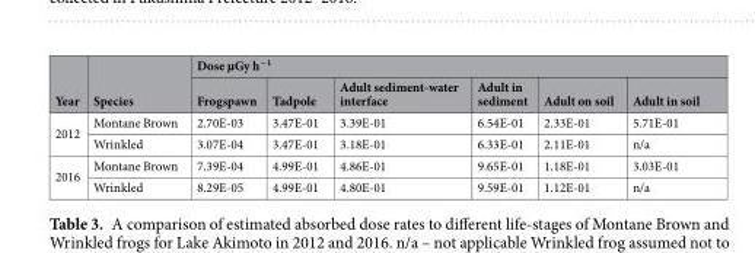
<table><thead><tr><td rowspan="2">Year</td><td rowspan="2">Species</td><td colspan="6">Dose µGy h<sup>−1</sup></td></tr><tr><td>Frogspawn</td><td>Tadpole</td><td>Adult sediment-water interface</td><td>Adult in sediment</td><td>Adult on soil</td><td>Adult in soil</td></tr></thead><tbody><tr><td rowspan="2">2012</td><td>Montane Brown</td><td>2.70E-03</td><td>3.47E-01</td><td>3.39E-01</td><td>6.54E-01</td><td>2.33E-01</td><td>5.71E-01</td></tr><tr><td>Wrinkled</td><td>3.07E-04</td><td>3.47E-01</td><td>3.18E-01</td><td>6.33E-01</td><td>2.11E-01</td><td>n/a</td></tr><tr><td rowspan="2">2016</td><td>Montane Brown</td><td>7.39E-04</td><td>4.99E-01</td><td>4.86E-01</td><td>9.65E-01</td><td>1.18E-01</td><td>3.03E-01</td></tr><tr><td>Wrinkled</td><td>8.29E-05</td><td>4.99E-01</td><td>4.80E-01</td><td>9.59E-01</td><td>1.12E-01</td><td>n/a</td></tr></tbody></table>